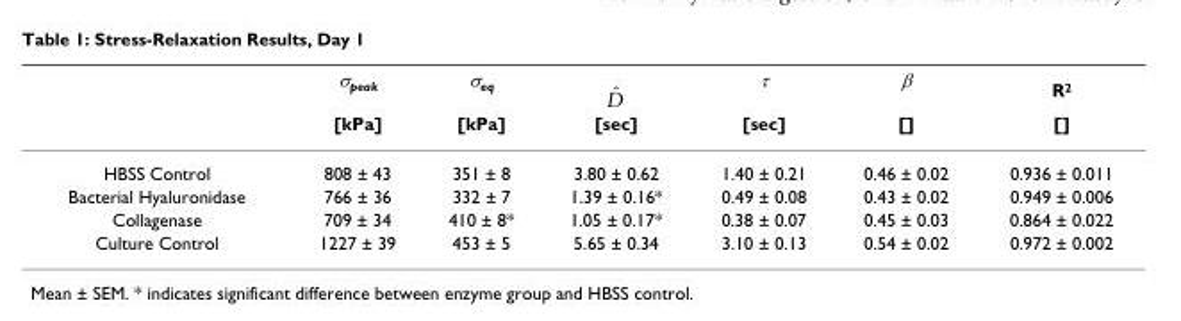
<table><thead><tr><td rowspan="2"></td><td rowspan="2">σ<sub>peak</sub> [kPa]</td><td rowspan="2">σ<sub>eq</sub> [kPa]</td><td rowspan="2">[sec] ˆD</td><td rowspan="2">τ [sec]</td><td rowspan="2">β []</td><td rowspan="2">R<sup>2</sup> []</td></tr><tr></tr></thead><tbody><tr><td>HBSS Control</td><td>808 ± 43</td><td>351 ± 8</td><td>3.80 ± 0.62</td><td>1.40 ± 0.21</td><td>0.46 ± 0.02</td><td>0.936 ± 0.011</td></tr><tr><td>Bacterial Hyaluronidase</td><td>766 ± 36</td><td>332 ± 7</td><td>1.39 ± 0.16*</td><td>0.49 ± 0.08</td><td>0.43 ± 0.02</td><td>0.949 ± 0.006</td></tr><tr><td>Collagenase</td><td>709 ± 34</td><td>410 ± 8*</td><td>1.05 ± 0.17*</td><td>0.38 ± 0.07</td><td>0.45 ± 0.03</td><td>0.864 ± 0.022</td></tr><tr><td>Culture Control</td><td>1227 ± 39</td><td>453 ± 5</td><td>5.65 ± 0.34</td><td>3.10 ± 0.13</td><td>0.54 ± 0.02</td><td>0.972 ± 0.002</td></tr></tbody></table>